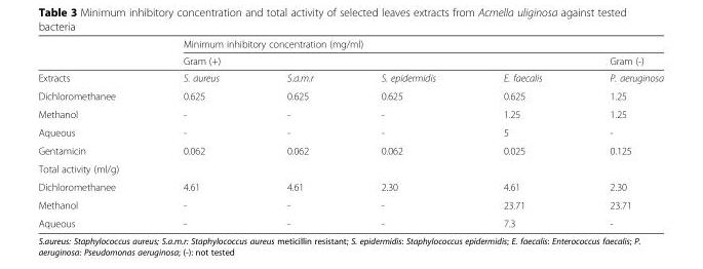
<table><thead><tr><td rowspan="3">Extracts</td><td colspan="5">Minimum inhibitory concentration (mg/ml)</td></tr><tr><td colspan="4">Gram (+)</td><td rowspan="2">Gram (-) P. aeruginosa</td></tr><tr><td>S. aureus</td><td>S.a.m.r</td><td>S. epidermidis</td><td>E. faecalis</td></tr></thead><tbody><tr><td>Dichloromethanee</td><td>0.625</td><td>0.625</td><td>0.625</td><td>0.625</td><td>1.25</td></tr><tr><td>Methanol</td><td>-</td><td>-</td><td>-</td><td>1.25</td><td>1.25</td></tr><tr><td>Aqueous</td><td>-</td><td>-</td><td>-</td><td>5</td><td>-</td></tr><tr><td>Gentamicin</td><td>0.062</td><td>0.062</td><td>0.062</td><td>0.025</td><td>0.125</td></tr><tr><td colspan="6">Total activity (ml/g)</td></tr><tr><td>Dichloromethanee</td><td>4.61</td><td>4.61</td><td>2.30</td><td>4.61</td><td>2.30</td></tr><tr><td>Methanol</td><td>-</td><td>-</td><td>-</td><td>23.71</td><td>23.71</td></tr><tr><td>Aqueous</td><td>-</td><td>-</td><td>-</td><td>7.3</td><td>-</td></tr></tbody></table>